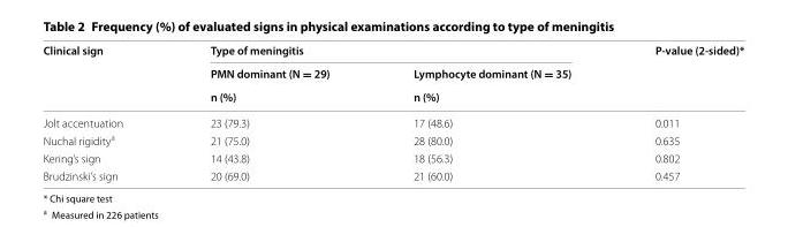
<table><thead><tr><td rowspan="3">Clinical sign</td><td colspan="2">Type of meningitis</td><td rowspan="3">P-value (2-sided)*</td></tr><tr><td rowspan="2">PMN dominant (N = 29) n (%)</td><td rowspan="2">Lymphocyte dominant (N = 35) n (%)</td></tr><tr></tr></thead><tbody><tr><td>Jolt accentuation</td><td>23 (79.3)</td><td>17 (48.6)</td><td>0.011</td></tr><tr><td>Nuchal rigidity<sup>a</sup></td><td>21 (75.0)</td><td>28 (80.0)</td><td>0.635</td></tr><tr><td>Kering’s sign</td><td>14 (43.8)</td><td>18 (56.3)</td><td>0.802</td></tr><tr><td>Brudzinski’s sign</td><td>20 (69.0)</td><td>21 (60.0)</td><td>0.457</td></tr></tbody></table>